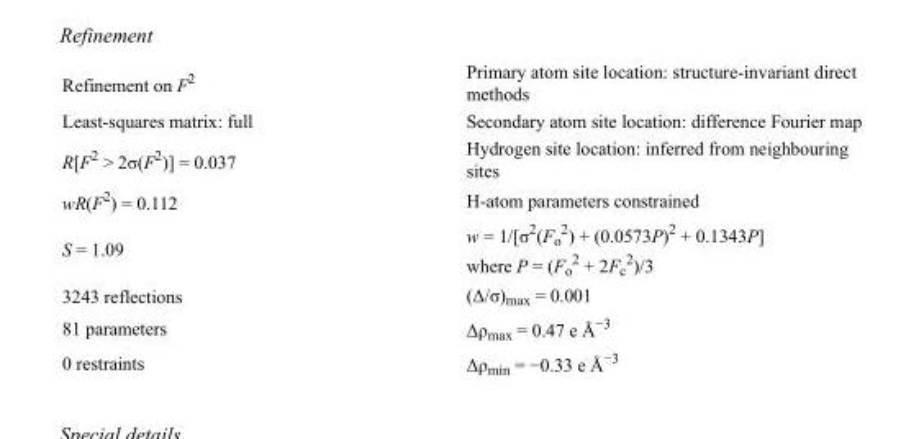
<table><tbody><tr><td>Refinement on F<sup>2</sup></td><td>Primary atom site location: structure-invariant direct methods</td></tr><tr><td>Least-squares matrix: full</td><td>Secondary atom site location: difference Fourier map</td></tr><tr><td>R[F<sup>2</sup> &gt; 2σ(F<sup>2</sup>)] = 0.037</td><td>Hydrogen site location: inferred from neighbouring sites</td></tr><tr><td>wR(F<sup>2</sup>) = 0.112</td><td>H-atom parameters constrained</td></tr><tr><td>S = 1.09</td><td>w = 1/[σ<sup>2</sup>(F<sub>o</sub> <sup>2</sup>) + (0.0573P)<sup>2</sup> + 0.1343P] where P = (F<sub>o</sub> <sup>2</sup> + 2F<sub>c</sub> <sup>2</sup>)/3</td></tr><tr><td>3243 reflections</td><td>(Δ/σ)<sub>max</sub> = 0.001</td></tr><tr><td>81 parameters</td><td>Δρ<sub>max</sub> = 0.47 e Å<sup>−3</sup></td></tr><tr><td>0 restraints</td><td>Δρ<sub>min</sub> = −0.33 e Å<sup>−3</sup></td></tr></tbody></table>